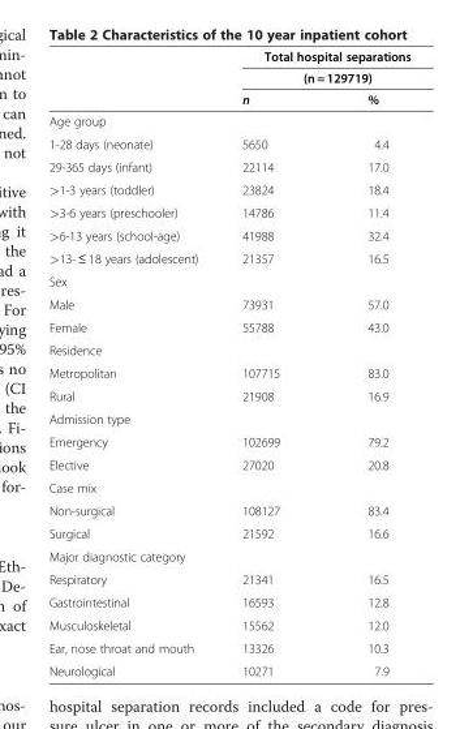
<table><thead><tr><td rowspan="3"></td><td rowspan="2" colspan="2">Total hospital separations (n = 129719)</td></tr><tr></tr><tr><td>n</td><td>%</td></tr></thead><tbody><tr><td colspan="3">Age group</td></tr><tr><td>1-28 days (neonate)</td><td>5650</td><td>4.4</td></tr><tr><td>29-365 days (infant)</td><td>22114</td><td>17.0</td></tr><tr><td>&gt;1-3 years (toddler)</td><td>23824</td><td>18.4</td></tr><tr><td>&gt;3-6 years (preschooler)</td><td>14786</td><td>11.4</td></tr><tr><td>&gt;6-13 years (school-age)</td><td>41988</td><td>32.4</td></tr><tr><td>&gt;13- ≤ 18 years (adolescent)</td><td>21357</td><td>16.5</td></tr><tr><td colspan="3">Sex</td></tr><tr><td>Male</td><td>73931</td><td>57.0</td></tr><tr><td>Female</td><td>55788</td><td>43.0</td></tr><tr><td colspan="3">Residence</td></tr><tr><td>Metropolitan</td><td>107715</td><td>83.0</td></tr><tr><td>Rural</td><td>21908</td><td>16.9</td></tr><tr><td colspan="3">Admission type</td></tr><tr><td>Emergency</td><td>102699</td><td>79.2</td></tr><tr><td>Elective</td><td>27020</td><td>20.8</td></tr><tr><td colspan="3">Case mix</td></tr><tr><td>Non-surgical</td><td>108127</td><td>83.4</td></tr><tr><td>Surgical</td><td>21592</td><td>16.6</td></tr><tr><td colspan="3">Major diagnostic category</td></tr><tr><td>Respiratory</td><td>21341</td><td>16.5</td></tr><tr><td>Gastrointestinal</td><td>16593</td><td>12.8</td></tr><tr><td>Musculoskeletal</td><td>15562</td><td>12.0</td></tr><tr><td>Ear, nose throat and mouth</td><td>13326</td><td>10.3</td></tr><tr><td>Neurological</td><td>10271</td><td>7.9</td></tr></tbody></table>